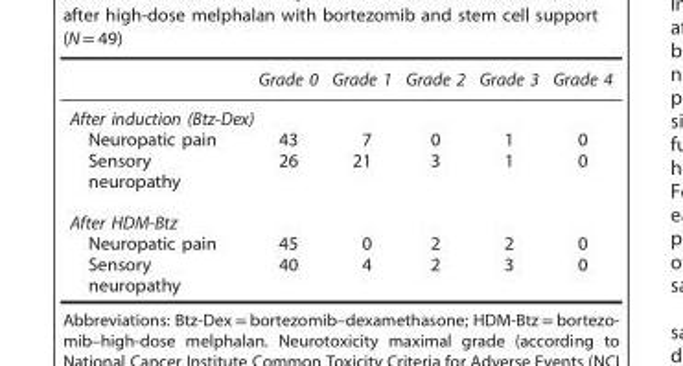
<table><thead><tr><td></td><td>Grade 0</td><td>Grade 1</td><td>Grade 2</td><td>Grade 3</td><td>Grade 4</td></tr></thead><tbody><tr><td colspan="6">After induction (Btz-Dex)</td></tr><tr><td>Neuropatic pain</td><td>43</td><td>7</td><td>0</td><td>1</td><td>0</td></tr><tr><td>Sensory neuropathy</td><td>26</td><td>21</td><td>3</td><td>1</td><td>0</td></tr><tr><td colspan="6">After HDM-Btz</td></tr><tr><td>Neuropatic pain</td><td>45</td><td>0</td><td>2</td><td>2</td><td>0</td></tr><tr><td>Sensory neuropathy</td><td>40</td><td>4</td><td>2</td><td>3</td><td>0</td></tr></tbody></table>